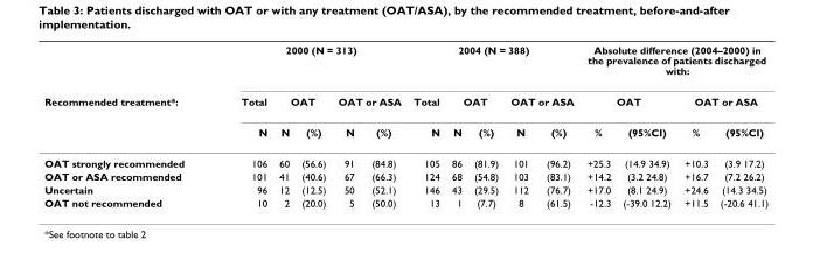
<table><thead><tr><td rowspan="3">Recommended treatment*:</td><td colspan="5">2000 (N = 313)</td><td colspan="5">2004 (N = 388)</td><td colspan="4">Absolute difference (2004–2000) in the prevalence of patients discharged with:</td></tr><tr><td rowspan="2">Total N</td><td colspan="2">OAT</td><td colspan="2">OAT or ASA</td><td rowspan="2">Total N</td><td colspan="2">OAT</td><td colspan="2">OAT or ASA</td><td colspan="2">OAT</td><td colspan="2">OAT or ASA</td></tr><tr><td>N</td><td>(%)</td><td>N</td><td>(%)</td><td>N</td><td>(%)</td><td>N</td><td>(%)</td><td>%</td><td>(95%CI)</td><td>%</td><td>(95%CI)</td></tr></thead><tbody><tr><td>OAT strongly recommended</td><td>106</td><td>60</td><td>(56.6)</td><td>91</td><td>(84.8)</td><td>105</td><td>86</td><td>(81.9)</td><td>101</td><td>(96.2)</td><td>+25.3</td><td>(14.9 34.9)</td><td>+10.3</td><td>(3.9 17.2)</td></tr><tr><td>OAT or ASA recommended</td><td>101</td><td>41</td><td>(40.6)</td><td>67</td><td>(66.3)</td><td>124</td><td>68</td><td>(54.8)</td><td>103</td><td>(83.1)</td><td>+14.2</td><td>(3.2 24.8)</td><td>+16.7</td><td>(7.2 26.2)</td></tr><tr><td>Uncertain</td><td>96</td><td>12</td><td>(12.5)</td><td>50</td><td>(52.1)</td><td>146</td><td>43</td><td>(29.5)</td><td>112</td><td>(76.7)</td><td>+17.0</td><td>(8.1 24.9)</td><td>+24.6</td><td>(14.3 34.5)</td></tr><tr><td>OAT not recommended</td><td>10</td><td>2</td><td>(20.0)</td><td>5</td><td>(50.0)</td><td>13</td><td>1</td><td>(7.7)</td><td>8</td><td>(61.5)</td><td>-12.3</td><td>(-39.0 12.2)</td><td>+11.5</td><td>(-20.6 41.1)</td></tr></tbody></table>